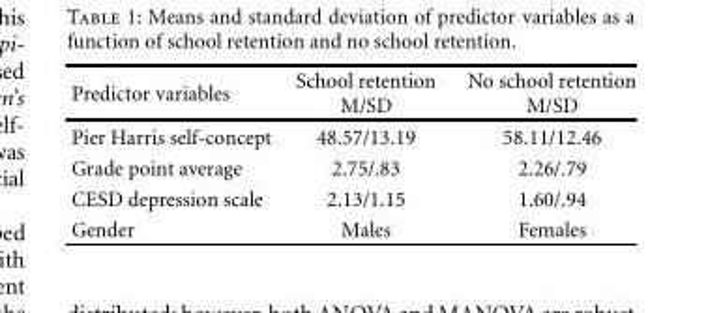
<table><thead><tr><td>Predictor variables</td><td>School retention M/SD</td><td>No school retention M/SD</td></tr></thead><tbody><tr><td>Pier Harris self-concept</td><td>48.57/13.19</td><td>58.11/12.46</td></tr><tr><td>Grade point average</td><td>2.75/.83</td><td>2.26/.79</td></tr><tr><td>CESD depression scale</td><td>2.13/1.15</td><td>1.60/.94</td></tr><tr><td>Gender</td><td>Males</td><td>Females</td></tr></tbody></table>